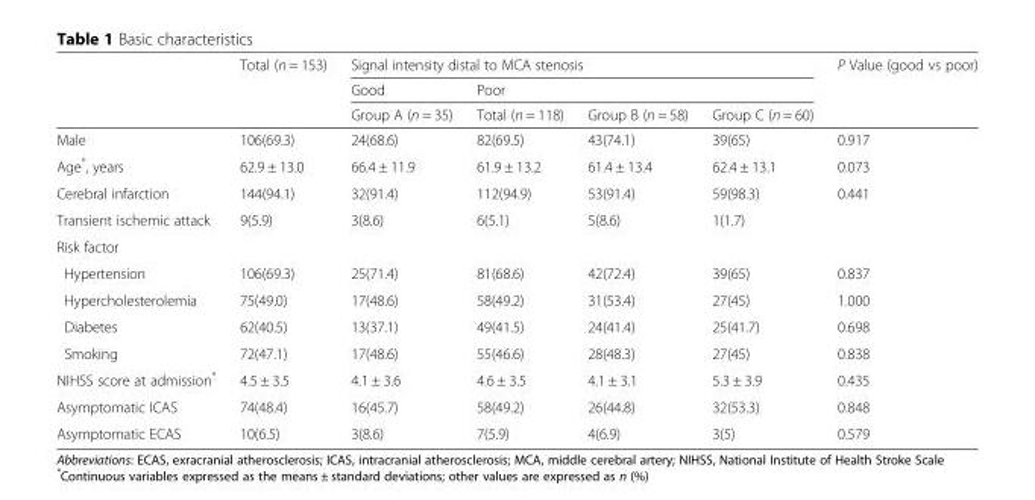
<table><thead><tr><td rowspan="3"></td><td rowspan="3">Total (n = 153)</td><td colspan="4">Signal intensity distal to MCA stenosis</td><td rowspan="3">P Value (good vs poor)</td></tr><tr><td rowspan="2">Good Group A (n = 35)</td><td colspan="3">Poor</td></tr><tr><td>Total (n = 118)</td><td>Group B (n = 58)</td><td>Group C (n = 60)</td></tr></thead><tbody><tr><td>Male</td><td>106(69.3)</td><td>24(68.6)</td><td>82(69.5)</td><td>43(74.1)</td><td>39(65)</td><td>0.917</td></tr><tr><td>Age*, years</td><td>62.9 ± 13.0</td><td>66.4 ± 11.9</td><td>61.9 ± 13.2</td><td>61.4 ± 13.4</td><td>62.4 ± 13.1</td><td>0.073</td></tr><tr><td>Cerebral infarction</td><td>144(94.1)</td><td>32(91.4)</td><td>112(94.9)</td><td>53(91.4)</td><td>59(98.3)</td><td>0.441</td></tr><tr><td>Transient ischemic attack</td><td>9(5.9)</td><td>3(8.6)</td><td>6(5.1)</td><td>5(8.6)</td><td>1(1.7)</td><td></td></tr><tr><td colspan="7">Risk factor</td></tr><tr><td>Hypertension</td><td>106(69.3)</td><td>25(71.4)</td><td>81(68.6)</td><td>42(72.4)</td><td>39(65)</td><td>0.837</td></tr><tr><td>Hypercholesterolemia</td><td>75(49.0)</td><td>17(48.6)</td><td>58(49.2)</td><td>31(53.4)</td><td>27(45)</td><td>1.000</td></tr><tr><td>Diabetes</td><td>62(40.5)</td><td>13(37.1)</td><td>49(41.5)</td><td>24(41.4)</td><td>25(41.7)</td><td>0.698</td></tr><tr><td>Smoking</td><td>72(47.1)</td><td>17(48.6)</td><td>55(46.6)</td><td>28(48.3)</td><td>27(45)</td><td>0.838</td></tr><tr><td>NIHSS score at admission*</td><td>4.5 ± 3.5</td><td>4.1 ± 3.6</td><td>4.6 ± 3.5</td><td>4.1 ± 3.1</td><td>5.3 ± 3.9</td><td>0.435</td></tr><tr><td>Asymptomatic ICAS</td><td>74(48.4)</td><td>16(45.7)</td><td>58(49.2)</td><td>26(44.8)</td><td>32(53.3)</td><td>0.848</td></tr><tr><td>Asymptomatic ECAS</td><td>10(6.5)</td><td>3(8.6)</td><td>7(5.9)</td><td>4(6.9)</td><td>3(5)</td><td>0.579</td></tr></tbody></table>